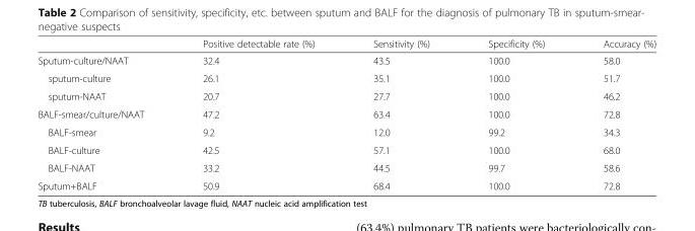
<table><thead><tr><td></td><td>Positive detectable rate (%)</td><td>Sensitivity (%)</td><td>Specificity (%)</td><td>Accuracy (%)</td></tr></thead><tbody><tr><td>Sputum-culture/NAAT</td><td>32.4</td><td>43.5</td><td>100.0</td><td>58.0</td></tr><tr><td>sputum-culture</td><td>26.1</td><td>35.1</td><td>100.0</td><td>51.7</td></tr><tr><td>sputum-NAAT</td><td>20.7</td><td>27.7</td><td>100.0</td><td>46.2</td></tr><tr><td>BALF-smear/culture/NAAT</td><td>47.2</td><td>63.4</td><td>100.0</td><td>72.8</td></tr><tr><td>BALF-smear</td><td>9.2</td><td>12.0</td><td>99.2</td><td>34.3</td></tr><tr><td>BALF-culture</td><td>42.5</td><td>57.1</td><td>100.0</td><td>68.0</td></tr><tr><td>BALF-NAAT</td><td>33.2</td><td>44.5</td><td>99.7</td><td>58.6</td></tr><tr><td>Sputum+BALF</td><td>50.9</td><td>68.4</td><td>100.0</td><td>72.8</td></tr></tbody></table>